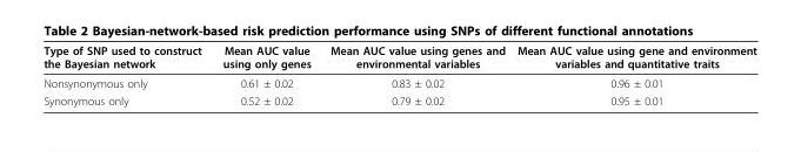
<table><thead><tr><td>Type of SNP used to construct the Bayesian network</td><td>Mean AUC value using only genes</td><td>Mean AUC value using genes and environmental variables</td><td>Mean AUC value using gene and environment variables and quantitative traits</td></tr></thead><tbody><tr><td>Nonsynonymous only</td><td>0.61 ± 0.02</td><td>0.83 ± 0.02</td><td>0.96 ± 0.01</td></tr><tr><td>Synonymous only</td><td>0.52 ± 0.02</td><td>0.79 ± 0.02</td><td>0.95 ± 0.01</td></tr></tbody></table>